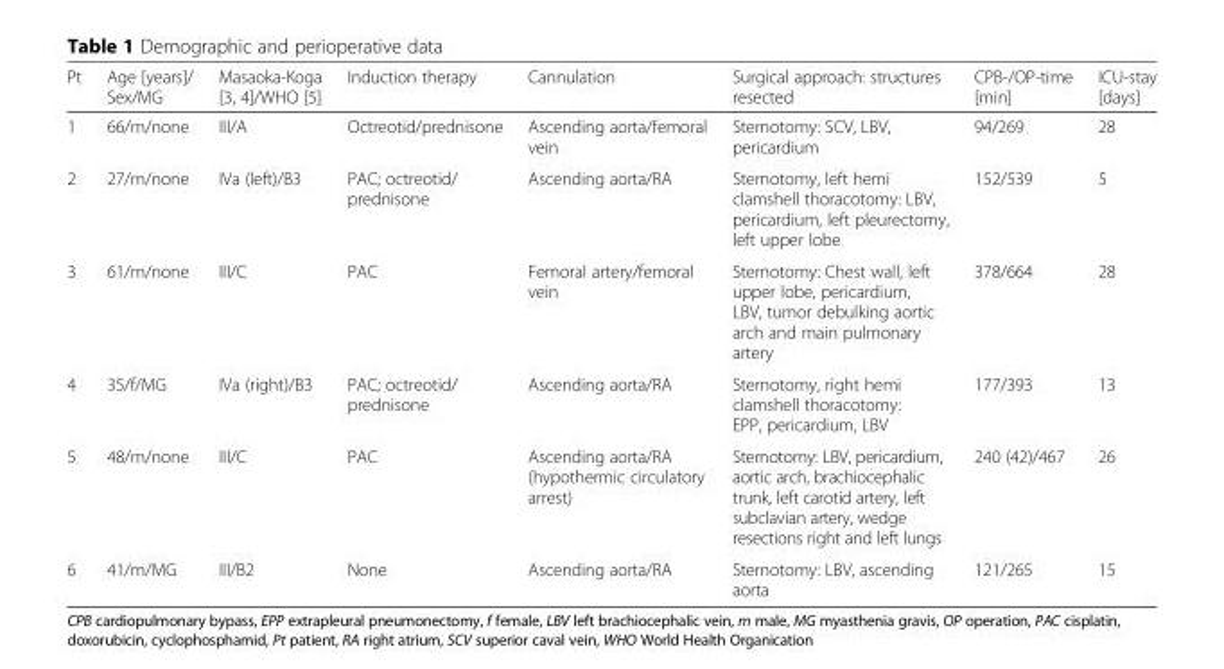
<table><thead><tr><td>Pt</td><td>Age [years]/ Sex/MG</td><td>Masaoka-Koga [3, 4]/WHO [5]</td><td>Induction therapy</td><td>Cannulation</td><td>Surgical approach: structures resected</td><td>CPB-/OP-time [min]</td><td>ICU-stay [days]</td></tr></thead><tbody><tr><td>1</td><td>66/m/none</td><td>III/A</td><td>Octreotid/prednisone</td><td>Ascending aorta/femoral vein</td><td>Sternotomy: SCV, LBV, pericardium</td><td>94/269</td><td>28</td></tr><tr><td>2</td><td>27/m/none</td><td>IVa (left)/B3</td><td>PAC; octreotid/ prednisone</td><td>Ascending aorta/RA</td><td>Sternotomy, left hemi clamshell thoracotomy: LBV, pericardium, left pleurectomy, left upper lobe</td><td>152/539</td><td>5</td></tr><tr><td>3</td><td>61/m/none</td><td>III/C</td><td>PAC</td><td>Femoral artery/femoral vein</td><td>Sternotomy: Chest wall, left upper lobe, pericardium, LBV, tumor debulking aortic arch and main pulmonary artery</td><td>378/664</td><td>28</td></tr><tr><td>4</td><td>35/f/MG</td><td>IVa (right)/B3</td><td>PAC; octreotid/ prednisone</td><td>Ascending aorta/RA</td><td>Sternotomy, right hemi clamshell thoracotomy: EPP, pericardium, LBV</td><td>177/393</td><td>13</td></tr><tr><td>5</td><td>48/m/none</td><td>III/C</td><td>PAC</td><td>Ascending aorta/RA (hypothermic circulatory arrest)</td><td>Sternotomy: LBV, pericardium, aortic arch, brachiocephalic trunk, left carotid artery, left subclavian artery, wedge resections right and left lungs</td><td>240 (42)/467</td><td>26</td></tr><tr><td>6</td><td>41/m/MG</td><td>III/B2</td><td>None</td><td>Ascending aorta/RA</td><td>Sternotomy: LBV, ascending aorta</td><td>121/265</td><td>15</td></tr></tbody></table>